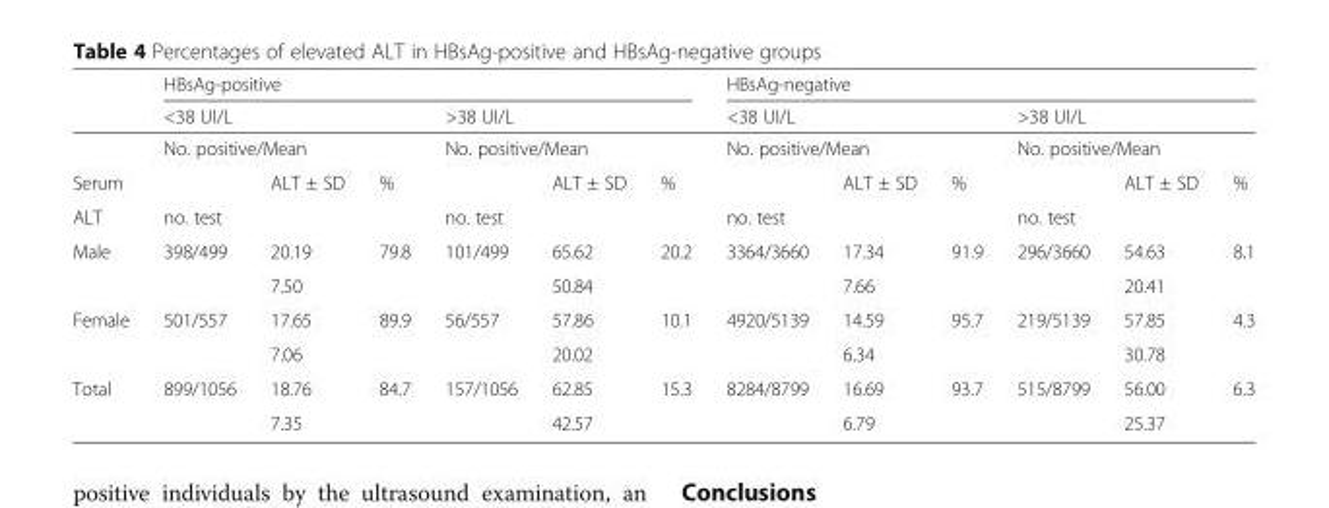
<table><thead><tr><td rowspan="4">Serum</td><td colspan="6">HBsAg-positive</td><td colspan="6">HBsAg-negative</td></tr><tr><td colspan="3">&lt;38 UI/L</td><td colspan="3">&gt;38 UI/L</td><td colspan="3">&lt;38 UI/L</td><td colspan="3">&gt;38 UI/L</td></tr><tr><td colspan="2">No. positive/Mean</td><td rowspan="2">%</td><td colspan="2">No. positive/Mean</td><td rowspan="2">%</td><td colspan="2">No. positive/Mean</td><td rowspan="2">%</td><td colspan="2">No. positive/Mean</td><td rowspan="2">%</td></tr><tr><td></td><td>ALT ± SD</td><td></td><td>ALT ± SD</td><td></td><td>ALT ± SD</td><td></td><td>ALT ± SD</td></tr></thead><tbody><tr><td>ALT</td><td>no. test</td><td></td><td></td><td>no. test</td><td></td><td></td><td>no. test</td><td></td><td></td><td>no. test</td><td></td><td></td></tr><tr><td rowspan="2">Male</td><td>398/499</td><td>20.19</td><td>79.8</td><td>101/499</td><td>65.62</td><td>20.2</td><td>3364/3660</td><td>17.34</td><td>91.9</td><td>296/3660</td><td>54.63</td><td>8.1</td></tr><tr><td></td><td>7.50</td><td></td><td></td><td>50.84</td><td></td><td></td><td>7.66</td><td></td><td></td><td>20.41</td><td></td></tr><tr><td rowspan="2">Female</td><td>501/557</td><td>17.65</td><td>89.9</td><td>56/557</td><td>57.86</td><td>10.1</td><td>4920/5139</td><td>14.59</td><td>95.7</td><td>219/5139</td><td>57.85</td><td>4.3</td></tr><tr><td></td><td>7.06</td><td></td><td></td><td>20.02</td><td></td><td></td><td>6.34</td><td></td><td></td><td>30.78</td><td></td></tr><tr><td rowspan="2">Total</td><td>899/1056</td><td>18.76</td><td>84.7</td><td>157/1056</td><td>62.85</td><td>15.3</td><td>8284/8799</td><td>16.69</td><td>93.7</td><td>515/8799</td><td>56.00</td><td>6.3</td></tr><tr><td></td><td>7.35</td><td></td><td></td><td>42.57</td><td></td><td></td><td>6.79</td><td></td><td></td><td>25.37</td><td></td></tr></tbody></table>